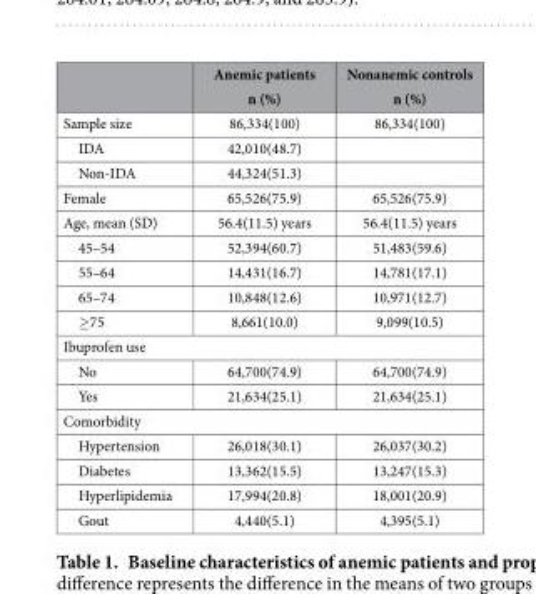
<table><thead><tr><td></td><td>Anemic patients n (%)</td><td>Nonanemic controls n (%)</td></tr></thead><tbody><tr><td>Sample size</td><td>86,334(100)</td><td>86,334(100)</td></tr><tr><td>IDA</td><td>42,010(48.7)</td><td></td></tr><tr><td>Non-IDA</td><td>44,324(51.3)</td><td></td></tr><tr><td>Female</td><td>65,526(75.9)</td><td>65,526(75.9)</td></tr><tr><td>Age, mean (SD)</td><td>56.4(11.5) years</td><td>56.4(11.5) years</td></tr><tr><td>45–54</td><td>52,394(60.7)</td><td>51,483(59.6)</td></tr><tr><td>55–64</td><td>14,431(16.7)</td><td>14,781(17.1)</td></tr><tr><td>65–74</td><td>10,848(12.6)</td><td>10,971(12.7)</td></tr><tr><td>≥ 75</td><td>8,661(10.0)</td><td>9,099(10.5)</td></tr><tr><td colspan="3">Ibuprofen use</td></tr><tr><td>No</td><td>64,700(74.9)</td><td>64,700(74.9)</td></tr><tr><td>Yes</td><td>21,634(25.1)</td><td>21,634(25.1)</td></tr><tr><td colspan="3">Comorbidity</td></tr><tr><td>Hypertension</td><td>26,018(30.1)</td><td>26,037(30.2)</td></tr><tr><td>Diabetes</td><td>13,362(15.5)</td><td>13,247(15.3)</td></tr><tr><td>Hyperlipidemia</td><td>17,994(20.8)</td><td>18,001(20.9)</td></tr><tr><td>Gout</td><td>4,440(5.1)</td><td>4,395(5.1)</td></tr></tbody></table>